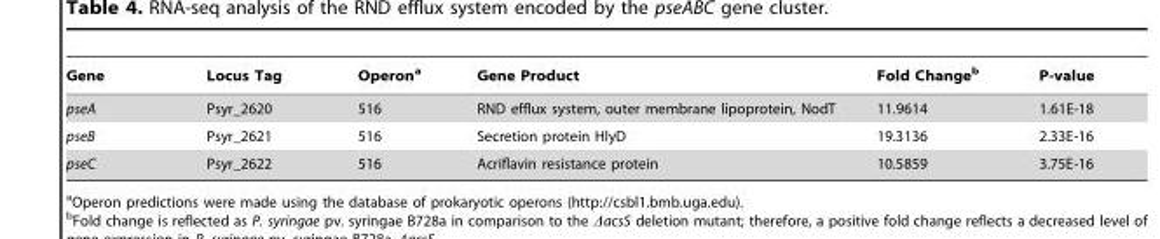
<table><thead><tr><td>Gene</td><td>Locus Tag</td><td>Operon<sup>a</sup></td><td>Gene Product</td><td>Fold Change<sup>b</sup></td><td>P-value</td></tr></thead><tbody><tr><td>pseA</td><td>Psyr_2620</td><td>516</td><td>RND efflux system, outer membrane lipoprotein, NodT</td><td>11.9614</td><td>1.61E-18</td></tr><tr><td>pseB</td><td>Psyr_2621</td><td>516</td><td>Secretion protein HlyD</td><td>19.3136</td><td>2.33E-16</td></tr><tr><td>pseC</td><td>Psyr_2622</td><td>516</td><td>Acriflavin resistance protein</td><td>10.5859</td><td>3.75E-16</td></tr></tbody></table>